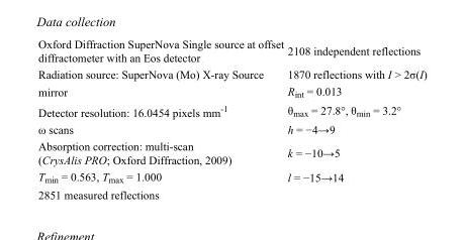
<table><tbody><tr><td>Oxford Diffraction SuperNova Single source at offset diffractometer with an Eos detector</td><td>2108 independent reflections</td></tr><tr><td>Radiation source: SuperNova (Mo) X-ray Source</td><td>1870 reflections with I &gt; 2σ(I)</td></tr><tr><td>mirror</td><td>R<sub>int</sub> = 0.013</td></tr><tr><td>Detector resolution: 16.0454 pixels mm<sup>-1</sup></td><td>θ<sub>max</sub> = 27.8°, θ<sub>min</sub> = 3.2°</td></tr><tr><td>ω scans</td><td>h = −4→9</td></tr><tr><td>Absorption correction: multi-scan (CrysAlis PRO; Oxford Diffraction, 2009)</td><td>k = −10→5</td></tr><tr><td>T<sub>min</sub> = 0.563, T<sub>max</sub> = 1.000</td><td>l = −15→14</td></tr><tr><td>2851 measured reflections</td><td></td></tr></tbody></table>